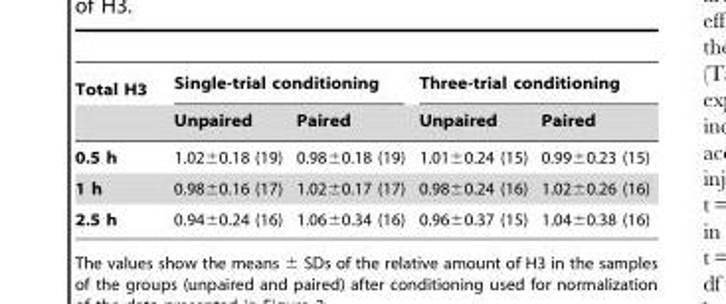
<table><thead><tr><td rowspan="2">Total H3</td><td colspan="2">Single-trial conditioning</td><td colspan="2">Three-trial conditioning</td></tr><tr><td>Unpaired</td><td>Paired</td><td>Unpaired</td><td>Paired</td></tr></thead><tbody><tr><td>0.5 h</td><td>1.02±0.18 (19)</td><td>0.98±0.18 (19)</td><td>1.01±0.24 (15)</td><td>0.99±0.23 (15)</td></tr><tr><td>1 h</td><td>0.98±0.16 (17)</td><td>1.02±0.17 (17)</td><td>0.98±0.24 (16)</td><td>1.02±0.26 (16)</td></tr><tr><td>2.5 h</td><td>0.94±0.24 (16)</td><td>1.06±0.34 (16)</td><td>0.96±0.37 (15)</td><td>1.04±0.38 (16)</td></tr></tbody></table>